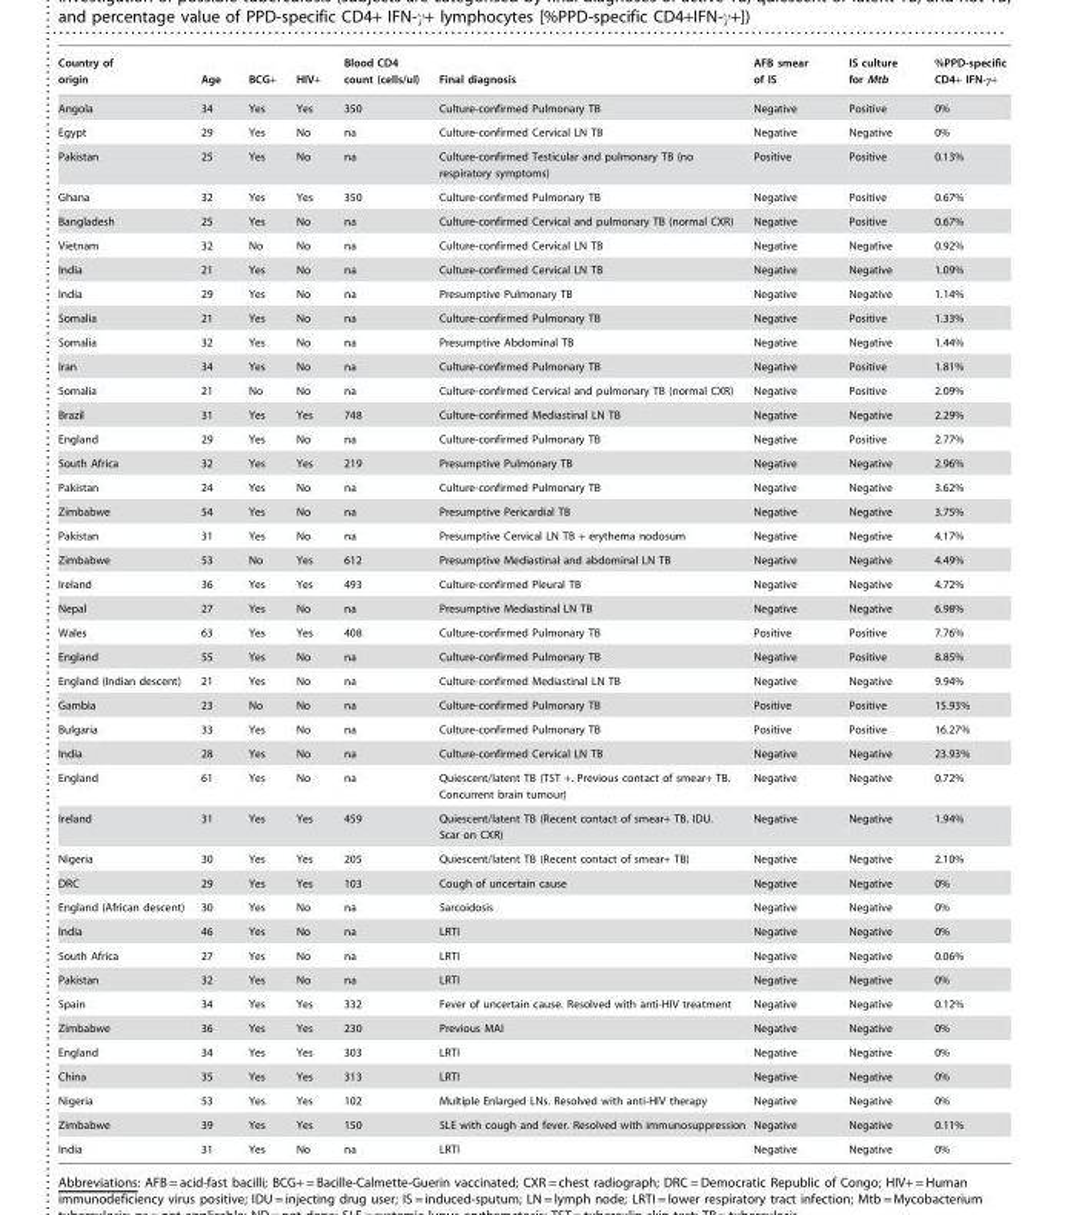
<table><thead><tr><td>Country of origin</td><td>Age</td><td>BCG+</td><td>HIV+</td><td>Blood CD4 count (cells/ul)</td><td>Final diagnosis</td><td>AFB smear of IS</td><td>IS culture for Mtb</td><td>%PPD-specific CD4+ IFN-γ+</td></tr></thead><tbody><tr><td>Angola</td><td>34</td><td>Yes</td><td>Yes</td><td>350</td><td>Culture-confirmed Pulmonary TB</td><td>Negative</td><td>Positive</td><td>0%</td></tr><tr><td>Egypt</td><td>29</td><td>Yes</td><td>No</td><td>na</td><td>Culture-confirmed Cervical LN TB</td><td>Negative</td><td>Negative</td><td>0%</td></tr><tr><td>Pakistan</td><td>25</td><td>Yes</td><td>No</td><td>na</td><td>Culture-confirmed Testicular and pulmonary TB (no respiratory symptoms)</td><td>Positive</td><td>Positive</td><td>0.13%</td></tr><tr><td>Ghana</td><td>32</td><td>Yes</td><td>Yes</td><td>350</td><td>Culture-confirmed Pulmonary TB</td><td>Negative</td><td>Positive</td><td>0.67%</td></tr><tr><td>Bangladesh</td><td>25</td><td>Yes</td><td>No</td><td>na</td><td>Culture-confirmed Cervical and pulmonary TB (normal CXR)</td><td>Negative</td><td>Positive</td><td>0.67%</td></tr><tr><td>Vietnam</td><td>32</td><td>No</td><td>No</td><td>na</td><td>Culture-confirmed Cervical LN TB</td><td>Negative</td><td>Negative</td><td>0.92%</td></tr><tr><td>India</td><td>21</td><td>Yes</td><td>No</td><td>na</td><td>Culture-confirmed Cervical LN TB</td><td>Negative</td><td>Negative</td><td>1.09%</td></tr><tr><td>India</td><td>29</td><td>Yes</td><td>No</td><td>na</td><td>Presumptive Pulmonary TB</td><td>Negative</td><td>Negative</td><td>1.14%</td></tr><tr><td>Somalia</td><td>21</td><td>Yes</td><td>No</td><td>na</td><td>Culture-confirmed Pulmonary TB</td><td>Negative</td><td>Positive</td><td>1.33%</td></tr><tr><td>Somalia</td><td>32</td><td>Yes</td><td>No</td><td>na</td><td>Presumptive Abdominal TB</td><td>Negative</td><td>Negative</td><td>1.44%</td></tr><tr><td>Iran</td><td>34</td><td>Yes</td><td>No</td><td>na</td><td>Culture-confirmed Pulmonary TB</td><td>Negative</td><td>Positive</td><td>1.81%</td></tr><tr><td>Somalia</td><td>21</td><td>No</td><td>No</td><td>na</td><td>Culture-confirmed Cervical and pulmonary TB (normal CXR)</td><td>Negative</td><td>Positive</td><td>2.09%</td></tr><tr><td>Brazil</td><td>31</td><td>Yes</td><td>Yes</td><td>748</td><td>Culture-confirmed Mediastinal LN TB</td><td>Negative</td><td>Negative</td><td>2.29%</td></tr><tr><td>England</td><td>29</td><td>Yes</td><td>No</td><td>na</td><td>Culture-confirmed Pulmonary TB</td><td>Negative</td><td>Positive</td><td>2.77%</td></tr><tr><td>South Africa</td><td>32</td><td>Yes</td><td>Yes</td><td>219</td><td>Presumptive Pulmonary TB</td><td>Negative</td><td>Negative</td><td>2.96%</td></tr><tr><td>Pakistan</td><td>24</td><td>Yes</td><td>No</td><td>na</td><td>Culture-confirmed Pulmonary TB</td><td>Negative</td><td>Negative</td><td>3.62%</td></tr><tr><td>Zimbabwe</td><td>54</td><td>Yes</td><td>No</td><td>na</td><td>Presumptive Pericardial TB</td><td>Negative</td><td>Negative</td><td>3.75%</td></tr><tr><td>Pakistan</td><td>31</td><td>Yes</td><td>No</td><td>na</td><td>Presumptive Cervical LN TB + erythema nodosum</td><td>Negative</td><td>Negative</td><td>4.17%</td></tr><tr><td>Zimbabwe</td><td>53</td><td>No</td><td>Yes</td><td>612</td><td>Presumptive Mediastinal and abdominal LN TB</td><td>Negative</td><td>Negative</td><td>4.49%</td></tr><tr><td>Ireland</td><td>36</td><td>Yes</td><td>Yes</td><td>493</td><td>Culture-confirmed Pleural TB</td><td>Negative</td><td>Negative</td><td>4.72%</td></tr><tr><td>Nepal</td><td>27</td><td>Yes</td><td>No</td><td>na</td><td>Presumptive Mediastinal LN TB</td><td>Negative</td><td>Negative</td><td>6.98%</td></tr><tr><td>Wales</td><td>63</td><td>Yes</td><td>Yes</td><td>408</td><td>Culture-confirmed Pulmonary TB</td><td>Positive</td><td>Positive</td><td>7.76%</td></tr><tr><td>England</td><td>55</td><td>Yes</td><td>No</td><td>na</td><td>Culture-confirmed Pulmonary TB</td><td>Negative</td><td>Positive</td><td>8.85%</td></tr><tr><td>England (Indian descent)</td><td>21</td><td>Yes</td><td>No</td><td>na</td><td>Culture-confirmed Mediastinal LN TB</td><td>Negative</td><td>Negative</td><td>9.94%</td></tr><tr><td>Gambia</td><td>23</td><td>No</td><td>No</td><td>na</td><td>Culture-confirmed Pulmonary TB</td><td>Positive</td><td>Positive</td><td>15.93%</td></tr><tr><td>Bulgaria</td><td>33</td><td>Yes</td><td>No</td><td>na</td><td>Culture-confirmed Pulmonary TB</td><td>Positive</td><td>Positive</td><td>16.27%</td></tr><tr><td>India</td><td>28</td><td>Yes</td><td>No</td><td>na</td><td>Culture-confirmed Cervical LN TB</td><td>Negative</td><td>Negative</td><td>23.93%</td></tr><tr><td>England</td><td>61</td><td>Yes</td><td>No</td><td>na</td><td>Quiescent/latent TB (TST +. Previous contact of smear+ TB. Concurrent brain tumour)</td><td>Negative</td><td>Negative</td><td>0.72%</td></tr><tr><td>Ireland</td><td>31</td><td>Yes</td><td>Yes</td><td>459</td><td>Quiescent/latent TB (Recent contact of smear+ TB. IDU. Scar on CXR)</td><td>Negative</td><td>Negative</td><td>1.94%</td></tr><tr><td>Nigeria</td><td>30</td><td>Yes</td><td>Yes</td><td>205</td><td>Quiescent/latent TB (Recent contact of smear+ TB)</td><td>Negative</td><td>Negative</td><td>2.10%</td></tr><tr><td>DRC</td><td>29</td><td>Yes</td><td>Yes</td><td>103</td><td>Cough of uncertain cause</td><td>Negative</td><td>Negative</td><td>0%</td></tr><tr><td>England (African descent)</td><td>30</td><td>Yes</td><td>No</td><td>na</td><td>Sarcoidosis</td><td>Negative</td><td>Negative</td><td>0%</td></tr><tr><td>India</td><td>46</td><td>Yes</td><td>No</td><td>na</td><td>LRTI</td><td>Negative</td><td>Negative</td><td>0%</td></tr><tr><td>South Africa</td><td>27</td><td>Yes</td><td>No</td><td>na</td><td>LRTI</td><td>Negative</td><td>Negative</td><td>0.06%</td></tr><tr><td>Pakistan</td><td>32</td><td>Yes</td><td>No</td><td>na</td><td>LRTI</td><td>Negative</td><td>Negative</td><td>0%</td></tr><tr><td>Spain</td><td>34</td><td>Yes</td><td>Yes</td><td>332</td><td>Fever of uncertain cause. Resolved with anti-HIV treatment</td><td>Negative</td><td>Negative</td><td>0.12%</td></tr><tr><td>Zimbabwe</td><td>36</td><td>Yes</td><td>Yes</td><td>230</td><td>Previous MAI</td><td>Negative</td><td>Negative</td><td>0%</td></tr><tr><td>England</td><td>34</td><td>Yes</td><td>Yes</td><td>303</td><td>LRTI</td><td>Negative</td><td>Negative</td><td>0%</td></tr><tr><td>China</td><td>35</td><td>Yes</td><td>Yes</td><td>313</td><td>LRTI</td><td>Negative</td><td>Negative</td><td>0%</td></tr><tr><td>Nigeria</td><td>53</td><td>Yes</td><td>Yes</td><td>102</td><td>Multiple Enlarged LNs. Resolved with anti-HIV therapy</td><td>Negative</td><td>Negative</td><td>0%</td></tr><tr><td>Zimbabwe</td><td>39</td><td>Yes</td><td>Yes</td><td>150</td><td>SLE with cough and fever. Resolved with immunosuppression</td><td>Negative</td><td>Negative</td><td>0.11%</td></tr><tr><td>India</td><td>31</td><td>Yes</td><td>No</td><td>na</td><td>LRTI</td><td>Negative</td><td>Negative</td><td>0%</td></tr></tbody></table>